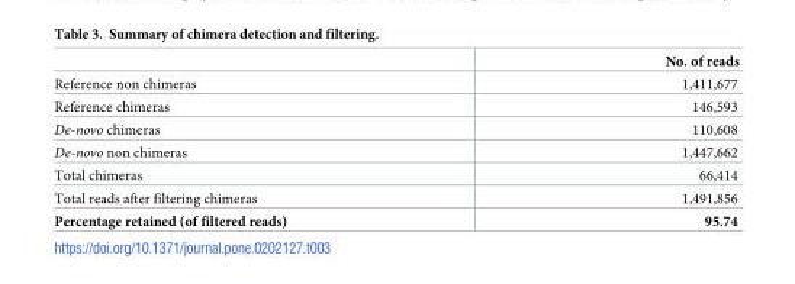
<table><thead><tr><td></td><td>No. of reads</td></tr></thead><tbody><tr><td>Reference non chimeras</td><td>1,411,677</td></tr><tr><td>Reference chimeras</td><td>146,593</td></tr><tr><td>De-novo chimeras</td><td>110,608</td></tr><tr><td>De-novo non chimeras</td><td>1,447,662</td></tr><tr><td>Total chimeras</td><td>66,414</td></tr><tr><td>Total reads after filtering chimeras</td><td>1,491,856</td></tr><tr><td>Percentage retained (of filtered reads)</td><td>95.74</td></tr></tbody></table>